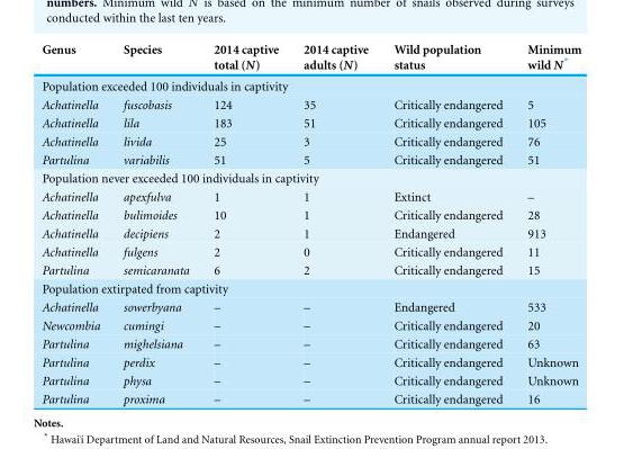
<table><thead><tr><td>Genus</td><td>Species</td><td>2014 captive total (N)</td><td>2014 captive adults (N)</td><td>Wild population status</td><td>Minimum wild N*</td></tr></thead><tbody><tr><td colspan="6">Population exceeded 100 individuals in captivity</td></tr><tr><td>Achatinella</td><td>fuscobasis</td><td>124</td><td>35</td><td>Critically endangered</td><td>5</td></tr><tr><td>Achatinella</td><td>lila</td><td>183</td><td>51</td><td>Critically endangered</td><td>105</td></tr><tr><td>Achatinella</td><td>livida</td><td>25</td><td>3</td><td>Critically endangered</td><td>76</td></tr><tr><td>Partulina</td><td>variabilis</td><td>51</td><td>5</td><td>Critically endangered</td><td>51</td></tr><tr><td colspan="6">Population never exceeded 100 individuals in captivity</td></tr><tr><td>Achatinella</td><td>apexfulva</td><td>1</td><td>1</td><td>Extinct</td><td>–</td></tr><tr><td>Achatinella</td><td>bulimoides</td><td>10</td><td>1</td><td>Critically endangered</td><td>28</td></tr><tr><td>Achatinella</td><td>decipiens</td><td>2</td><td>1</td><td>Endangered</td><td>913</td></tr><tr><td>Achatinella</td><td>fulgens</td><td>2</td><td>0</td><td>Critically endangered</td><td>11</td></tr><tr><td>Partulina</td><td>semicaranata</td><td>6</td><td>2</td><td>Critically endangered</td><td>15</td></tr><tr><td colspan="6">Population extirpated from captivity</td></tr><tr><td>Achatinella</td><td>sowerbyana</td><td>–</td><td>–</td><td>Endangered</td><td>533</td></tr><tr><td>Newcombia</td><td>cumingi</td><td>–</td><td>–</td><td>Critically endangered</td><td>20</td></tr><tr><td>Partulina</td><td>mighelsiana</td><td>–</td><td>–</td><td>Critically endangered</td><td>63</td></tr><tr><td>Partulina</td><td>perdix</td><td>–</td><td>–</td><td>Critically endangered</td><td>Unknown</td></tr><tr><td>Partulina</td><td>physa</td><td>–</td><td>–</td><td>Critically endangered</td><td>Unknown</td></tr><tr><td>Partulina</td><td>proxima</td><td>–</td><td>–</td><td>Critically endangered</td><td>16</td></tr></tbody></table>